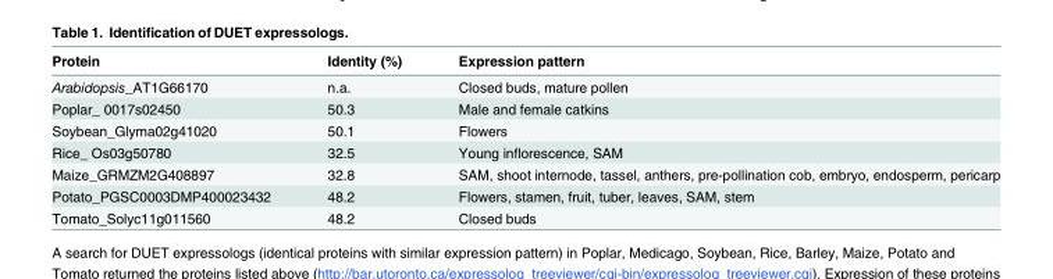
<table><thead><tr><td>Protein</td><td>Identity (%)</td><td>Expression pattern</td></tr></thead><tbody><tr><td>Arabidopsis_AT1G66170</td><td>n.a.</td><td>Closed buds, mature pollen</td></tr><tr><td>Poplar_ 0017s02450</td><td>50.3</td><td>Male and female catkins</td></tr><tr><td>Soybean_Glyma02g41020</td><td>50.1</td><td>Flowers</td></tr><tr><td>Rice_ Os03g50780</td><td>32.5</td><td>Young inflorescence, SAM</td></tr><tr><td>Maize_GRMZM2G408897</td><td>32.8</td><td>SAM, shoot internode, tassel, anthers, pre-pollination cob, embryo, endosperm, pericarp</td></tr><tr><td>Potato_PGSC0003DMP400023432</td><td>48.2</td><td>Flowers, stamen, fruit, tuber, leaves, SAM, stem</td></tr><tr><td>Tomato_Solyc11g011560</td><td>48.2</td><td>Closed buds</td></tr></tbody></table>